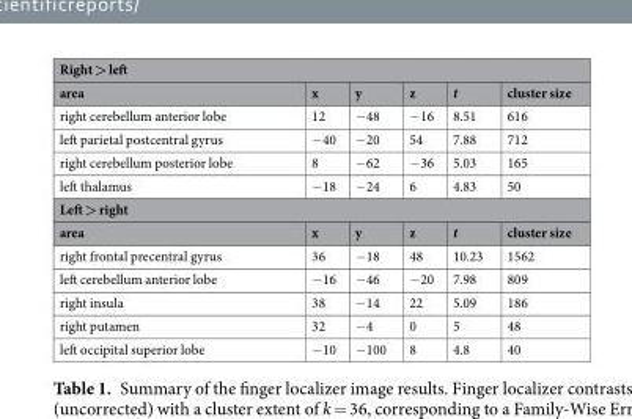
<table><thead><tr><td colspan="6">Right &gt; left</td></tr><tr><td>area</td><td>x</td><td>y</td><td>z</td><td>t</td><td>cluster size</td></tr></thead><tbody><tr><td>right cerebellum anterior lobe</td><td>12</td><td>−48</td><td>−16</td><td>8.51</td><td>616</td></tr><tr><td>left parietal postcentral gyrus</td><td>−40</td><td>−20</td><td>54</td><td>7.88</td><td>712</td></tr><tr><td>right cerebellum posterior lobe</td><td>8</td><td>−62</td><td>−36</td><td>5.03</td><td>165</td></tr><tr><td>left thalamus</td><td>−18</td><td>−24</td><td>6</td><td>4.83</td><td>50</td></tr><tr><td colspan="6">Left &gt; right</td></tr><tr><td>area</td><td>x</td><td>y</td><td>z</td><td>t</td><td>cluster size</td></tr><tr><td>right frontal precentral gyrus</td><td>36</td><td>−18</td><td>48</td><td>10.23</td><td>1562</td></tr><tr><td>left cerebellum anterior lobe</td><td>−16</td><td>−46</td><td>−20</td><td>7.98</td><td>809</td></tr><tr><td>right insula</td><td>38</td><td>−14</td><td>22</td><td>5.09</td><td>186</td></tr><tr><td>right putamen</td><td>32</td><td>−4</td><td>0</td><td>5</td><td>48</td></tr><tr><td>left occipital superior lobe</td><td>−10</td><td>−100</td><td>8</td><td>4.8</td><td>40</td></tr></tbody></table>